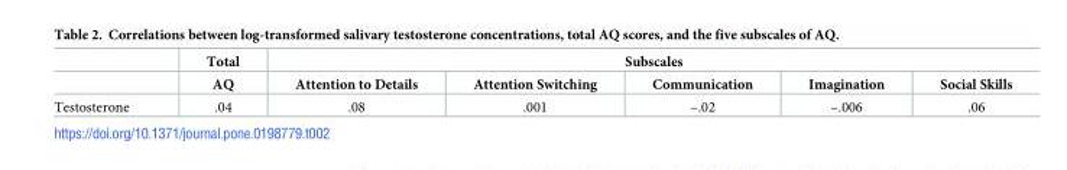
<table><thead><tr><td rowspan="2"></td><td rowspan="2">Total AQ</td><td colspan="5">Subscales</td></tr><tr><td>Attention to Details</td><td>Attention Switching</td><td>Communication</td><td>Imagination</td><td>Social Skills</td></tr></thead><tbody><tr><td>Testosterone</td><td>.04</td><td>.08</td><td>.001</td><td>–.02</td><td>–.006</td><td>.06</td></tr></tbody></table>